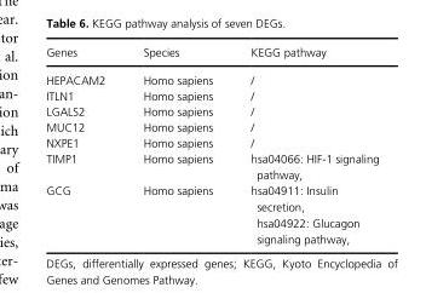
<table><thead><tr><td>Genes</td><td>Species</td><td>KEGG pathway</td></tr></thead><tbody><tr><td>HEPACAM2</td><td>Homo sapiens</td><td>/</td></tr><tr><td>ITLN1</td><td>Homo sapiens</td><td>/</td></tr><tr><td>LGALS2</td><td>Homo sapiens</td><td>/</td></tr><tr><td>MUC12</td><td>Homo sapiens</td><td>/</td></tr><tr><td>NXPE1</td><td>Homo sapiens</td><td>/</td></tr><tr><td>TIMP1</td><td>Homo sapiens</td><td>hsa04066: HIF- 1 signaling pathway,</td></tr><tr><td>GCG</td><td>Homo sapiens</td><td>hsa04911: Insulin secretion, hsa04922: Glucagon signaling pathway,</td></tr></tbody></table>